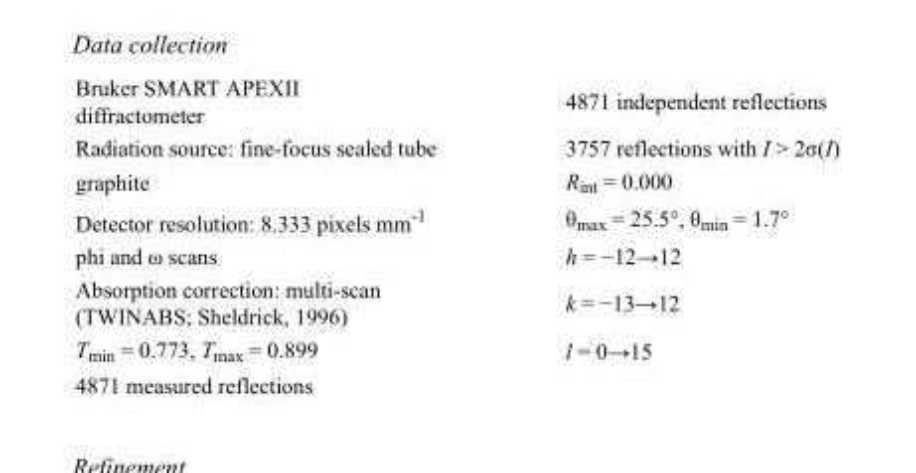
<table><tbody><tr><td>Bruker SMART APEXII diffractometer</td><td>4871 independent reflections</td></tr><tr><td>Radiation source: fine-focus sealed tube</td><td>3757 reflections with I &gt; 2σ(I)</td></tr><tr><td>graphite</td><td>R<sub>int</sub> = 0.000</td></tr><tr><td>Detector resolution: 8.333 pixels mm<sup>-1</sup></td><td>θ<sub>max</sub> = 25.5°, θ<sub>min</sub> = 1.7°</td></tr><tr><td>phi and ω scans</td><td>h = −12→12</td></tr><tr><td>Absorption correction: multi-scan (TWINABS; Sheldrick, 1996)</td><td>k = −13→12</td></tr><tr><td>T<sub>min</sub> = 0.773, T<sub>max</sub> = 0.899</td><td>l = 0→15</td></tr><tr><td>4871 measured reflections</td><td></td></tr></tbody></table>